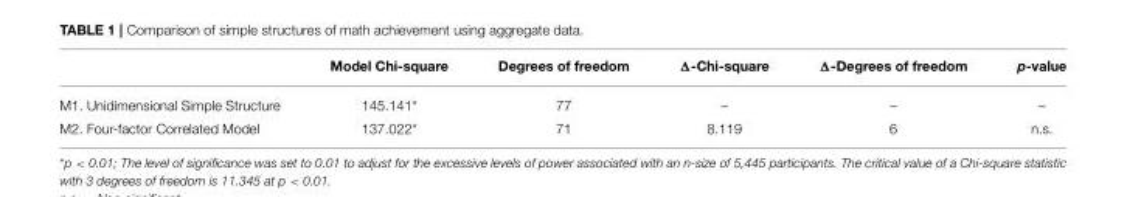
<table><thead><tr><td></td><td>Model Chi-square</td><td>Degrees of freedom</td><td>Δ-Chi-square</td><td>Δ-Degrees of freedom</td><td>p-value</td></tr></thead><tbody><tr><td>M1. Unidimensional Simple Structure</td><td>145.141*</td><td>77</td><td>–</td><td>–</td><td>–</td></tr><tr><td>M2. Four-factor Correlated Model</td><td>137.022*</td><td>71</td><td>8.119</td><td>6</td><td>n.s.</td></tr></tbody></table>